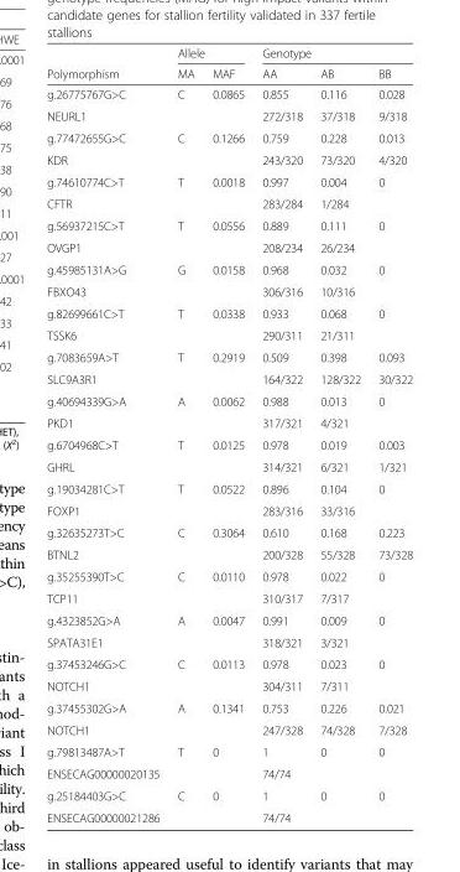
<table><thead><tr><td rowspan="2">Polymorphism</td><td colspan="2">Allele</td><td colspan="3">Genotype</td></tr><tr><td>MA</td><td>MAF</td><td>AA</td><td>AB</td><td>BB</td></tr></thead><tbody><tr><td>g.26775767G&gt;C</td><td>C</td><td>0.0865</td><td>0.855</td><td>0.116</td><td>0.028</td></tr><tr><td>NEURL1</td><td></td><td></td><td>272/318</td><td>37/318</td><td>9/318</td></tr><tr><td>g.77472655G&gt;C</td><td>C</td><td>0.1266</td><td>0.759</td><td>0.228</td><td>0.013</td></tr><tr><td>KDR</td><td></td><td></td><td>243/320</td><td>73/320</td><td>4/320</td></tr><tr><td>g.74610774C&gt;T</td><td>T</td><td>0.0018</td><td>0.997</td><td>0.004</td><td>0</td></tr><tr><td>CFTR</td><td></td><td></td><td>283/284</td><td>1/284</td><td></td></tr><tr><td>g.56937215C&gt;T</td><td>T</td><td>0.0556</td><td>0.889</td><td>0.111</td><td>0</td></tr><tr><td>OVGP1</td><td></td><td></td><td>208/234</td><td>26/234</td><td></td></tr><tr><td>g.45985131A&gt;G</td><td>G</td><td>0.0158</td><td>0.968</td><td>0.032</td><td>0</td></tr><tr><td>FBXO43</td><td></td><td></td><td>306/316</td><td>10/316</td><td></td></tr><tr><td>g.82699661C&gt;T</td><td>T</td><td>0.0338</td><td>0.933</td><td>0.068</td><td>0</td></tr><tr><td>TSSK6</td><td></td><td></td><td>290/311</td><td>21/311</td><td></td></tr><tr><td>g.7083659A&gt;T</td><td>T</td><td>0.2919</td><td>0.509</td><td>0.398</td><td>0.093</td></tr><tr><td>SLC9A3R1</td><td></td><td></td><td>164/322</td><td>128/322</td><td>30/322</td></tr><tr><td>g.40694339G&gt;A</td><td>A</td><td>0.0062</td><td>0.988</td><td>0.013</td><td>0</td></tr><tr><td>PKD1</td><td></td><td></td><td>317/321</td><td>4/321</td><td></td></tr><tr><td>g.6704968C&gt;T</td><td>T</td><td>0.0125</td><td>0.978</td><td>0.019</td><td>0.003</td></tr><tr><td>GHRL</td><td></td><td></td><td>314/321</td><td>6/321</td><td>1/321</td></tr><tr><td>g.19034281C&gt;T</td><td>T</td><td>0.0522</td><td>0.896</td><td>0.104</td><td>0</td></tr><tr><td>FOXP1</td><td></td><td></td><td>283/316</td><td>33/316</td><td></td></tr><tr><td>g.32635273T&gt;C</td><td>C</td><td>0.3064</td><td>0.610</td><td>0.168</td><td>0.223</td></tr><tr><td>BTNL2</td><td></td><td></td><td>200/328</td><td>55/328</td><td>73/328</td></tr><tr><td>g.35255390T&gt;C</td><td>C</td><td>0.0110</td><td>0.978</td><td>0.022</td><td>0</td></tr><tr><td>TCP11</td><td></td><td></td><td>310/317</td><td>7/317</td><td></td></tr><tr><td>g.4323852G&gt;A</td><td>A</td><td>0.0047</td><td>0.991</td><td>0.009</td><td>0</td></tr><tr><td>SPATA31E1</td><td></td><td></td><td>318/321</td><td>3/321</td><td></td></tr><tr><td>g.37453246G&gt;C</td><td>C</td><td>0.0113</td><td>0.978</td><td>0.023</td><td>0</td></tr><tr><td>NOTCH1</td><td></td><td></td><td>304/311</td><td>7/311</td><td></td></tr><tr><td>g.37455302G&gt;A</td><td>A</td><td>0.1341</td><td>0.753</td><td>0.226</td><td>0.021</td></tr><tr><td>NOTCH1</td><td></td><td></td><td>247/328</td><td>74/328</td><td>7/328</td></tr><tr><td>g.79813487A&gt;T</td><td>T</td><td>0</td><td>1</td><td>0</td><td>0</td></tr><tr><td>ENSECAG00000020135</td><td></td><td></td><td>74/74</td><td></td><td></td></tr><tr><td>g.25184403G&gt;C</td><td>C</td><td>0</td><td>1</td><td>0</td><td>0</td></tr><tr><td>ENSECAG00000021286</td><td></td><td></td><td>74/74</td><td></td><td></td></tr></tbody></table>